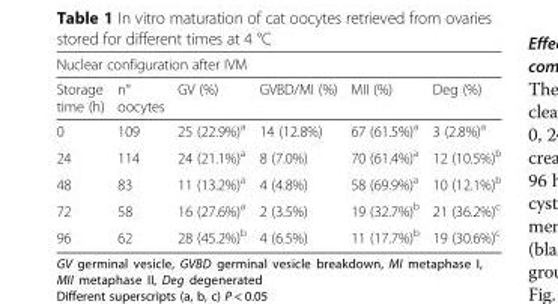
<table><thead><tr><td colspan="6">Nuclear configuration after IVM</td></tr><tr><td>Storage time (h)</td><td>n° oocytes</td><td>GV (%)</td><td>GVBD/MI (%)</td><td>MII (%)</td><td>Deg (%)</td></tr></thead><tbody><tr><td>0</td><td>109</td><td>25 (22.9%)<sup>a</sup></td><td>14 (12.8%)</td><td>67 (61.5%)<sup>a</sup></td><td>3 (2.8%)<sup>a</sup></td></tr><tr><td>24</td><td>114</td><td>24 (21.1%)<sup>a</sup></td><td>8 (7.0%)</td><td>70 (61.4%)<sup>a</sup></td><td>12 (10.5%)<sup>b</sup></td></tr><tr><td>48</td><td>83</td><td>11 (13.2%)<sup>a</sup></td><td>4 (4.8%)</td><td>58 (69.9%)<sup>a</sup></td><td>10 (12.1%)<sup>b</sup></td></tr><tr><td>72</td><td>58</td><td>16 (27.6%)<sup>a</sup></td><td>2 (3.5%)</td><td>19 (32.7%)<sup>b</sup></td><td>21 (36.2%)<sup>c</sup></td></tr><tr><td>96</td><td>62</td><td>28 (45.2%)<sup>b</sup></td><td>4 (6.5%)</td><td>11 (17.7%)<sup>b</sup></td><td>19 (30.6%)<sup>c</sup></td></tr></tbody></table>